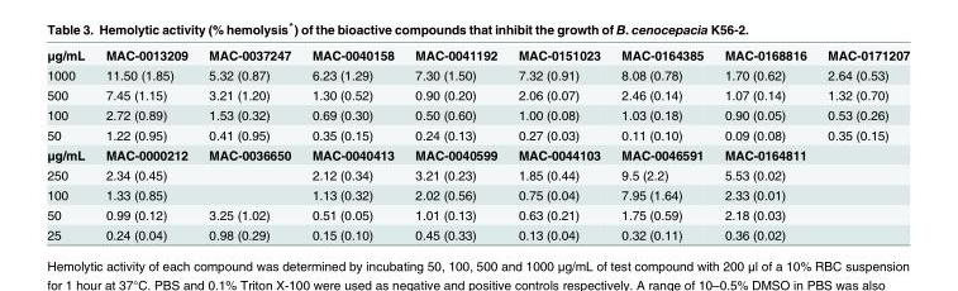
<table><tbody><tr><td>μg/mL</td><td>MAC-0013209</td><td>MAC-0037247</td><td>MAC-0040158</td><td>MAC-0041192</td><td>MAC-0151023</td><td>MAC-0164385</td><td>MAC-0168816</td><td>MAC-0171207</td></tr><tr><td>1000</td><td>11.50 (1.85)</td><td>5.32 (0.87)</td><td>6.23 (1.29)</td><td>7.30 (1.50)</td><td>7.32 (0.91)</td><td>8.08 (0.78)</td><td>1.70 (0.62)</td><td>2.64 (0.53)</td></tr><tr><td>500</td><td>7.45 (1.15)</td><td>3.21 (1.20)</td><td>1.30 (0.52)</td><td>0.90 (0.20)</td><td>2.06 (0.07)</td><td>2.46 (0.14)</td><td>1.07 (0.14)</td><td>1.32 (0.70)</td></tr><tr><td>100</td><td>2.72 (0.89)</td><td>1.53 (0.32)</td><td>0.69 (0.30)</td><td>0.50 (0.60)</td><td>1.00 (0.08)</td><td>1.03 (0.18)</td><td>0.90 (0.05)</td><td>0.53 (0.26)</td></tr><tr><td>50</td><td>1.22 (0.95)</td><td>0.41 (0.95)</td><td>0.35 (0.15)</td><td>0.24 (0.13)</td><td>0.27 (0.03)</td><td>0.11 (0.10)</td><td>0.09 (0.08)</td><td>0.35 (0.15)</td></tr><tr><td>μg/mL</td><td>MAC-0000212</td><td>MAC-0036650</td><td>MAC-0040413</td><td>MAC-0040599</td><td>MAC-0044103</td><td>MAC-0046591</td><td>MAC-0164811</td><td></td></tr><tr><td>250</td><td>2.34 (0.45)</td><td></td><td>2.12 (0.34)</td><td>3.21 (0.23)</td><td>1.85 (0.44)</td><td>9.5 (2.2)</td><td>5.53 (0.02)</td><td></td></tr><tr><td>100</td><td>1.33 (0.85)</td><td></td><td>1.13 (0.32)</td><td>2.02 (0.56)</td><td>0.75 (0.04)</td><td>7.95 (1.64)</td><td>2.33 (0.01)</td><td></td></tr><tr><td>50</td><td>0.99 (0.12)</td><td>3.25 (1.02)</td><td>0.51 (0.05)</td><td>1.01 (0.13)</td><td>0.63 (0.21)</td><td>1.75 (0.59)</td><td>2.18 (0.03)</td><td></td></tr><tr><td>25</td><td>0.24 (0.04)</td><td>0.98 (0.29)</td><td>0.15 (0.10)</td><td>0.45 (0.33)</td><td>0.13 (0.04)</td><td>0.32 (0.11)</td><td>0.36 (0.02)</td><td></td></tr></tbody></table>